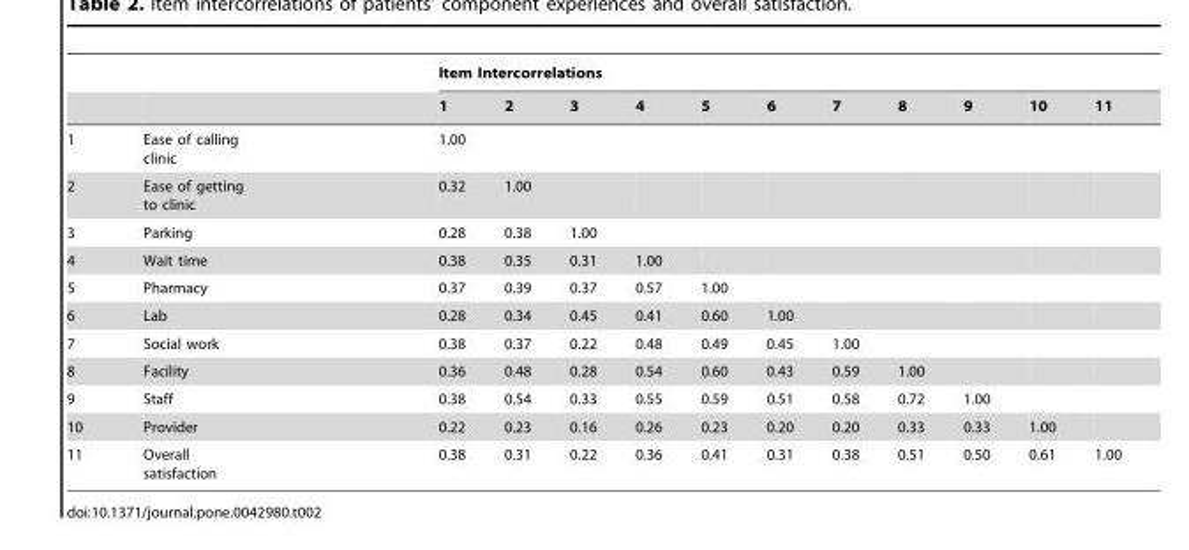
<table><thead><tr><td rowspan="2"></td><td rowspan="2"></td><td colspan="11">Item Intercorrelations</td></tr><tr><td>1</td><td>2</td><td>3</td><td>4</td><td>5</td><td>6</td><td>7</td><td>8</td><td>9</td><td>10</td><td>11</td></tr></thead><tbody><tr><td>1</td><td>Ease of calling clinic</td><td>1.00</td><td></td><td></td><td></td><td></td><td></td><td></td><td></td><td></td><td></td><td></td></tr><tr><td>2</td><td>Ease of getting to clinic</td><td>0.32</td><td>1.00</td><td></td><td></td><td></td><td></td><td></td><td></td><td></td><td></td><td></td></tr><tr><td>3</td><td>Parking</td><td>0.28</td><td>0.38</td><td>1.00</td><td></td><td></td><td></td><td></td><td></td><td></td><td></td><td></td></tr><tr><td>4</td><td>Wait time</td><td>0.38</td><td>0.35</td><td>0.31</td><td>1.00</td><td></td><td></td><td></td><td></td><td></td><td></td><td></td></tr><tr><td>5</td><td>Pharmacy</td><td>0.37</td><td>0.39</td><td>0.37</td><td>0.57</td><td>1.00</td><td></td><td></td><td></td><td></td><td></td><td></td></tr><tr><td>6</td><td>Lab</td><td>0.28</td><td>0.34</td><td>0.45</td><td>0.41</td><td>0.60</td><td>1.00</td><td></td><td></td><td></td><td></td><td></td></tr><tr><td>7</td><td>Social work</td><td>0.38</td><td>0.37</td><td>0.22</td><td>0.48</td><td>0.49</td><td>0.45</td><td>1.00</td><td></td><td></td><td></td><td></td></tr><tr><td>8</td><td>Facility</td><td>0.36</td><td>0.48</td><td>0.28</td><td>0.54</td><td>0.60</td><td>0.43</td><td>0.59</td><td>1.00</td><td></td><td></td><td></td></tr><tr><td>9</td><td>Staff</td><td>0.38</td><td>0.54</td><td>0.33</td><td>0.55</td><td>0.59</td><td>0.51</td><td>0.58</td><td>0.72</td><td>1.00</td><td></td><td></td></tr><tr><td>10</td><td>Provider</td><td>0.22</td><td>0.23</td><td>0.16</td><td>0.26</td><td>0.23</td><td>0.20</td><td>0.20</td><td>0.33</td><td>0.33</td><td>1.00</td><td></td></tr><tr><td>11</td><td>Overall satisfaction</td><td>0.38</td><td>0.31</td><td>0.22</td><td>0.36</td><td>0.41</td><td>0.31</td><td>0.38</td><td>0.51</td><td>0.50</td><td>0.61</td><td>1.00</td></tr></tbody></table>